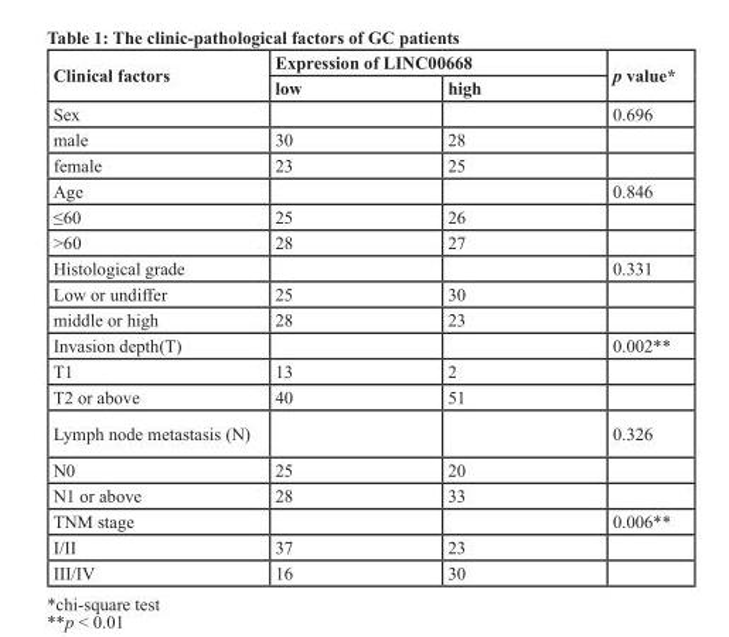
<table><thead><tr><td rowspan="2">Clinical factors</td><td colspan="2">Expression of LINC00668</td><td rowspan="2">p value*</td></tr><tr><td>low</td><td>high</td></tr></thead><tbody><tr><td>Sex</td><td></td><td></td><td>0.696</td></tr><tr><td>male</td><td>30</td><td>28</td><td></td></tr><tr><td>female</td><td>23</td><td>25</td><td></td></tr><tr><td>Age</td><td></td><td></td><td>0.846</td></tr><tr><td>≤60</td><td>25</td><td>26</td><td></td></tr><tr><td>&gt;60</td><td>28</td><td>27</td><td></td></tr><tr><td>Histological grade</td><td></td><td></td><td>0.331</td></tr><tr><td>Low or undiffer</td><td>25</td><td>30</td><td></td></tr><tr><td>middle or high</td><td>28</td><td>23</td><td></td></tr><tr><td>Invasion depth(T)</td><td></td><td></td><td>0.002**</td></tr><tr><td>T1</td><td>13</td><td>2</td><td></td></tr><tr><td>T2 or above</td><td>40</td><td>51</td><td></td></tr><tr><td>Lymph node metastasis (N)</td><td></td><td></td><td>0.326</td></tr><tr><td>N0</td><td>25</td><td>20</td><td></td></tr><tr><td>N1 or above</td><td>28</td><td>33</td><td></td></tr><tr><td>TNM stage</td><td></td><td></td><td>0.006**</td></tr><tr><td>I/II</td><td>37</td><td>23</td><td></td></tr><tr><td>III/IV</td><td>16</td><td>30</td><td></td></tr></tbody></table>